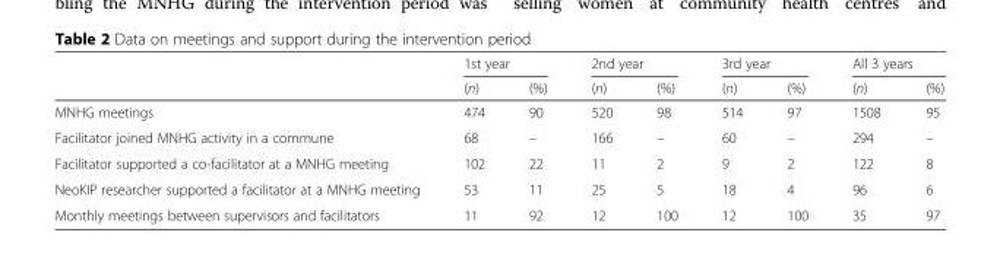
<table><thead><tr><td rowspan="2"></td><td colspan="2">1st year</td><td colspan="2">2nd year</td><td colspan="2">3rd year</td><td colspan="2">All 3 years</td></tr><tr><td>(n)</td><td>(%)</td><td>(n)</td><td>(%)</td><td>(n)</td><td>(%)</td><td>(n)</td><td>(%)</td></tr></thead><tbody><tr><td>MNHG meetings</td><td>474</td><td>90</td><td>520</td><td>98</td><td>514</td><td>97</td><td>1508</td><td>95</td></tr><tr><td>Facilitator joined MNHG activity in a commune</td><td>68</td><td>–</td><td>166</td><td>–</td><td>60</td><td>–</td><td>294</td><td>–</td></tr><tr><td>Facilitator supported a co-facilitator at a MNHG meeting</td><td>102</td><td>22</td><td>11</td><td>2</td><td>9</td><td>2</td><td>122</td><td>8</td></tr><tr><td>NeoKIP researcher supported a facilitator at a MNHG meeting</td><td>53</td><td>11</td><td>25</td><td>5</td><td>18</td><td>4</td><td>96</td><td>6</td></tr><tr><td>Monthly meetings between supervisors and facilitators</td><td>11</td><td>92</td><td>12</td><td>100</td><td>12</td><td>100</td><td>35</td><td>97</td></tr></tbody></table>